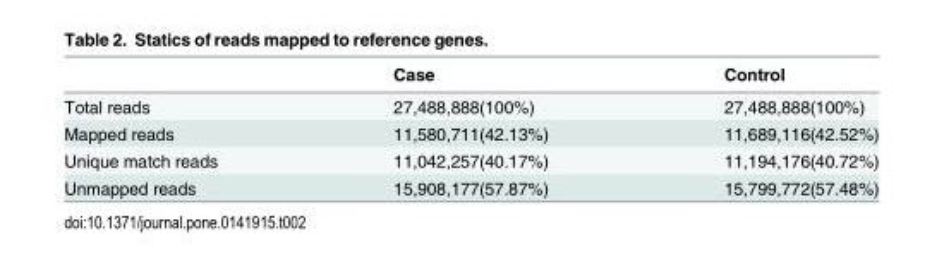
<table><thead><tr><td></td><td>Case</td><td>Control</td></tr></thead><tbody><tr><td>Total reads</td><td>27,488,888(100%)</td><td>27,488,888(100%)</td></tr><tr><td>Mapped reads</td><td>11,580,711(42.13%)</td><td>11,689,116(42.52%)</td></tr><tr><td>Unique match reads</td><td>11,042,257(40.17%)</td><td>11,194,176(40.72%)</td></tr><tr><td>Unmapped reads</td><td>15,908,177(57.87%)</td><td>15,799,772(57.48%)</td></tr></tbody></table>